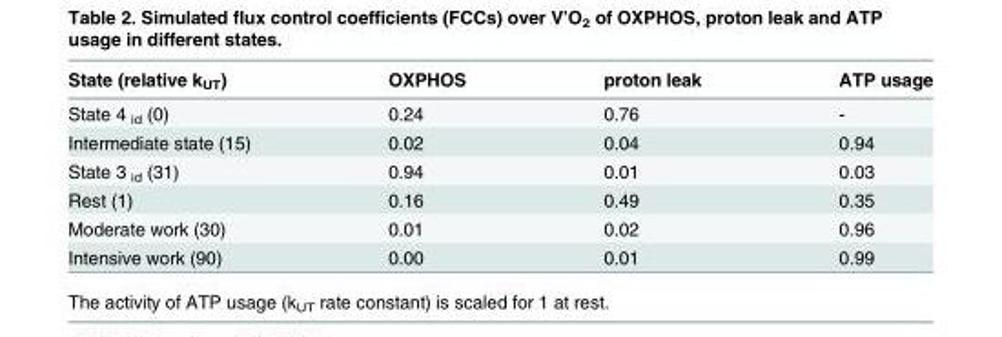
<table><thead><tr><td>State (relative k<sub>UT</sub>)</td><td>OXPHOS</td><td>proton leak</td><td>ATP usage</td></tr></thead><tbody><tr><td>State 4 <sub>id</sub> (0)</td><td>0.24</td><td>0.76</td><td>-</td></tr><tr><td>Intermediate state (15)</td><td>0.02</td><td>0.04</td><td>0.94</td></tr><tr><td>State 3 <sub>id</sub> (31)</td><td>0.94</td><td>0.01</td><td>0.03</td></tr><tr><td>Rest (1)</td><td>0.16</td><td>0.49</td><td>0.35</td></tr><tr><td>Moderate work (30)</td><td>0.01</td><td>0.02</td><td>0.96</td></tr><tr><td>Intensive work (90)</td><td>0.00</td><td>0.01</td><td>0.99</td></tr></tbody></table>